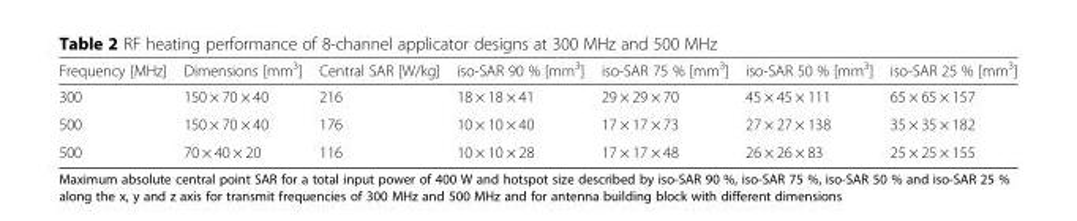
<table><thead><tr><td>Frequency [MHz]</td><td>Dimensions [mm<sup>3</sup>]</td><td>Central SAR [W/kg]</td><td>iso-SAR 90 % [mm<sup>3</sup>]</td><td>iso-SAR 75 % [mm<sup>3</sup>]</td><td>iso-SAR 50 % [mm<sup>3</sup>]</td><td>iso-SAR 25 % [mm<sup>3</sup>]</td></tr></thead><tbody><tr><td>300</td><td>150 × 70 × 40</td><td>216</td><td>18 × 18 × 41</td><td>29 × 29 × 70</td><td>45 × 45 × 111</td><td>65 × 65 × 157</td></tr><tr><td>500</td><td>150 × 70 × 40</td><td>176</td><td>10 × 10 × 40</td><td>17 × 17 × 73</td><td>27 × 27 × 138</td><td>35 × 35 × 182</td></tr><tr><td>500</td><td>70 × 40 × 20</td><td>116</td><td>10 × 10 × 28</td><td>17 × 17 × 48</td><td>26 × 26 × 83</td><td>25 × 25 × 155</td></tr></tbody></table>